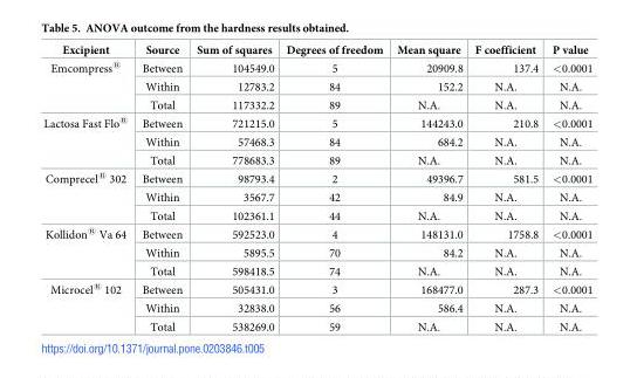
<table><thead><tr><td>Excipient</td><td>Source</td><td>Sum of squares</td><td>Degrees of freedom</td><td>Mean square</td><td>F coefficient</td><td>P value</td></tr></thead><tbody><tr><td rowspan="3">Emcompress<sup>®</sup></td><td>Between</td><td>104549.0</td><td>5</td><td>20909.8</td><td>137.4</td><td>&lt;0.0001</td></tr><tr><td>Within</td><td>12783.2</td><td>84</td><td>152.2</td><td>N.A.</td><td>N.A.</td></tr><tr><td>Total</td><td>117332.2</td><td>89</td><td>N.A.</td><td>N.A.</td><td>N.A.</td></tr><tr><td rowspan="3">Lactosa Fast Flo<sup>®</sup></td><td>Between</td><td>721215.0</td><td>5</td><td>144243.0</td><td>210.8</td><td>&lt;0.0001</td></tr><tr><td>Within</td><td>57468.3</td><td>84</td><td>684.2</td><td>N.A.</td><td>N.A.</td></tr><tr><td>Total</td><td>778683.3</td><td>89</td><td>N.A.</td><td>N.A.</td><td>N.A.</td></tr><tr><td rowspan="3">Comprecel<sup>®</sup> 302</td><td>Between</td><td>98793.4</td><td>2</td><td>49396.7</td><td>581.5</td><td>&lt;0.0001</td></tr><tr><td>Within</td><td>3567.7</td><td>42</td><td>84.9</td><td>N.A.</td><td>N.A.</td></tr><tr><td>Total</td><td>102361.1</td><td>44</td><td>N.A.</td><td>N.A.</td><td>N.A.</td></tr><tr><td rowspan="3">Kollidon<sup>®</sup> Va 64</td><td>Between</td><td>592523.0</td><td>4</td><td>148131.0</td><td>1758.8</td><td>&lt;0.0001</td></tr><tr><td>Within</td><td>5895.5</td><td>70</td><td>84.2</td><td>N.A.</td><td>N.A.</td></tr><tr><td>Total</td><td>598418.5</td><td>74</td><td>N.A.</td><td>N.A.</td><td>N.A.</td></tr><tr><td rowspan="3">Microcel<sup>®</sup> 102</td><td>Between</td><td>505431.0</td><td>3</td><td>168477.0</td><td>287.3</td><td>&lt;0.0001</td></tr><tr><td>Within</td><td>32838.0</td><td>56</td><td>586.4</td><td>N.A.</td><td>N.A.</td></tr><tr><td>Total</td><td>538269.0</td><td>59</td><td>N.A.</td><td>N.A.</td><td>N.A.</td></tr></tbody></table>